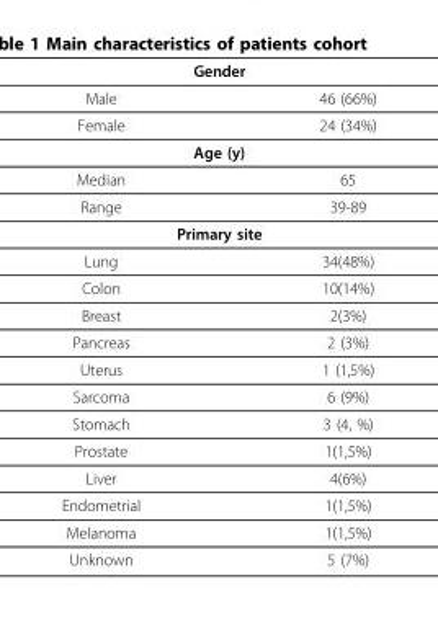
<table><thead><tr><td colspan="2">Gender</td></tr><tr><td>Male</td><td>46 (66%)</td></tr></thead><tbody><tr><td>Female</td><td>24 (34%)</td></tr><tr><td colspan="2">Age (y)</td></tr><tr><td>Median</td><td>65</td></tr><tr><td>Range</td><td>39-89</td></tr><tr><td colspan="2">Primary site</td></tr><tr><td>Lung</td><td>34(48%)</td></tr><tr><td>Colon</td><td>10(14%)</td></tr><tr><td>Breast</td><td>2(3%)</td></tr><tr><td>Pancreas</td><td>2 (3%)</td></tr><tr><td>Uterus</td><td>1 (1,5%)</td></tr><tr><td>Sarcoma</td><td>6 (9%)</td></tr><tr><td>Stomach</td><td>3 (4, %)</td></tr><tr><td>Prostate</td><td>1(1,5%)</td></tr><tr><td>Liver</td><td>4(6%)</td></tr><tr><td>Endometrial</td><td>1(1,5%)</td></tr><tr><td>Melanoma</td><td>1(1,5%)</td></tr><tr><td>Unknown</td><td>5 (7%)</td></tr></tbody></table>